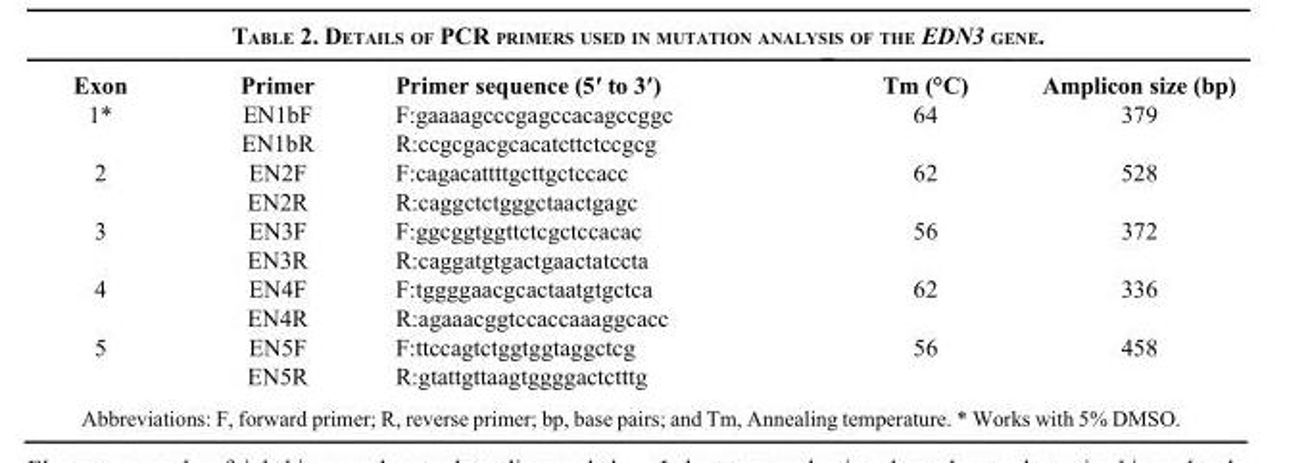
<table><thead><tr><td>Exon</td><td>Primer</td><td>Primer sequence (5′ to 3′)</td><td>Tm (°C)</td><td>Amplicon size (bp)</td></tr></thead><tbody><tr><td rowspan="2">1*</td><td>EN1bF</td><td>F:gaaaagcccgagccacagccggc</td><td>64</td><td>379</td></tr><tr><td>EN1bR</td><td>R:ccgcgacgcacatcttctccgcg</td><td></td><td></td></tr><tr><td rowspan="2">2</td><td>EN2F</td><td>F:cagacattttgcttgctccacc</td><td>62</td><td>528</td></tr><tr><td>EN2R</td><td>R:caggctctgggctaactgagc</td><td></td><td></td></tr><tr><td rowspan="2">3</td><td>EN3F</td><td>F:ggcggtggttctcgctccacac</td><td>56</td><td>372</td></tr><tr><td>EN3R</td><td>R:caggatgtgactgaactatccta</td><td></td><td></td></tr><tr><td rowspan="2">4</td><td>EN4F</td><td>F:tggggaacgcactaatgtgctca</td><td>62</td><td>336</td></tr><tr><td>EN4R</td><td>R:agaaacggtccaccaaaggcacc</td><td></td><td></td></tr><tr><td rowspan="2">5</td><td>EN5F</td><td>F:ttccagtctggtggtaggctcg</td><td>56</td><td>458</td></tr><tr><td>EN5R</td><td>R:gtattgttaagtggggactctttg</td><td></td><td></td></tr></tbody></table>